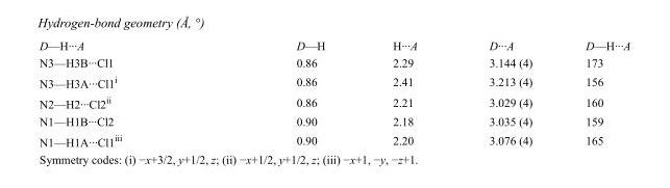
<table><tbody><tr><td>D—H···A</td><td>D—H</td><td>H···A</td><td>D···A</td><td>D—H···A</td></tr><tr><td>N3—H3B···Cl1</td><td>0.86</td><td>2.29</td><td>3.144 (4)</td><td>173</td></tr><tr><td>N3—H3A···Cl1<sup>i</sup></td><td>0.86</td><td>2.41</td><td>3.213 (4)</td><td>156</td></tr><tr><td>N2—H2···Cl2<sup>ii</sup></td><td>0.86</td><td>2.21</td><td>3.029 (4)</td><td>160</td></tr><tr><td>N1—H1B···Cl2</td><td>0.90</td><td>2.18</td><td>3.035 (4)</td><td>159</td></tr><tr><td>N1—H1A···Cl1<sup>iii</sup></td><td>0.90</td><td>2.20</td><td>3.076 (4)</td><td>165</td></tr></tbody></table>